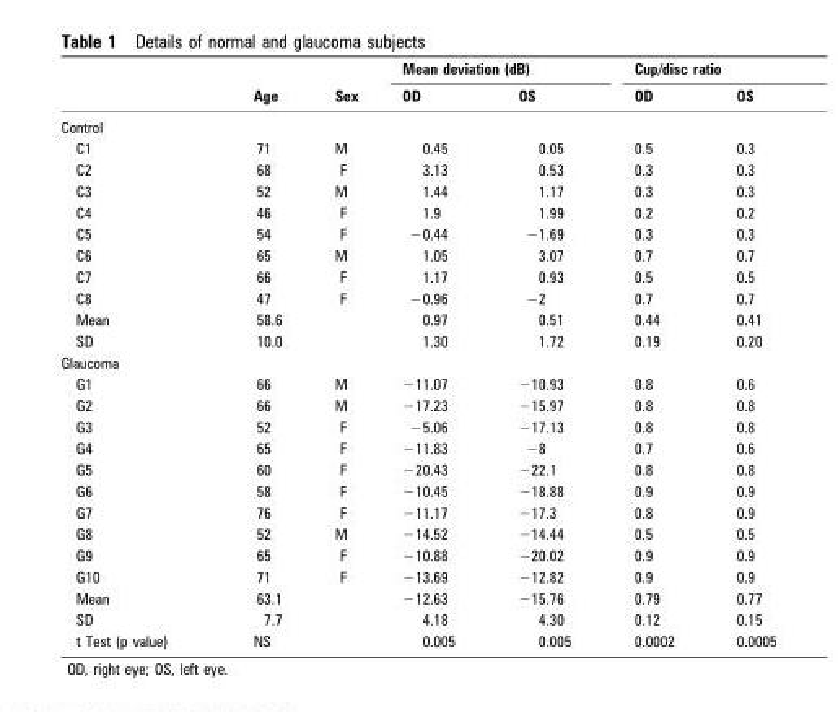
<table><thead><tr><td rowspan="2"></td><td rowspan="2">Age</td><td rowspan="2">Sex</td><td colspan="2">Mean deviation (dB)</td><td colspan="2">Cup/disc ratio</td></tr><tr><td>OD</td><td>OS</td><td>OD</td><td>OS</td></tr></thead><tbody><tr><td colspan="7">Control</td></tr><tr><td>C1</td><td>71</td><td>M</td><td>0.45</td><td>0.05</td><td>0.5</td><td>0.3</td></tr><tr><td>C2</td><td>68</td><td>F</td><td>3.13</td><td>0.53</td><td>0.3</td><td>0.3</td></tr><tr><td>C3</td><td>52</td><td>M</td><td>1.44</td><td>1.17</td><td>0.3</td><td>0.3</td></tr><tr><td>C4</td><td>46</td><td>F</td><td>1.9</td><td>1.99</td><td>0.2</td><td>0.2</td></tr><tr><td>C5</td><td>54</td><td>F</td><td>−0.44</td><td>−1.69</td><td>0.3</td><td>0.3</td></tr><tr><td>C6</td><td>65</td><td>M</td><td>1.05</td><td>3.07</td><td>0.7</td><td>0.7</td></tr><tr><td>C7</td><td>66</td><td>F</td><td>1.17</td><td>0.93</td><td>0.5</td><td>0.5</td></tr><tr><td>C8</td><td>47</td><td>F</td><td>−0.96</td><td>−2</td><td>0.7</td><td>0.7</td></tr><tr><td>Mean</td><td>58.6</td><td></td><td>0.97</td><td>0.51</td><td>0.44</td><td>0.41</td></tr><tr><td>SD</td><td>10.0</td><td></td><td>1.30</td><td>1.72</td><td>0.19</td><td>0.20</td></tr><tr><td colspan="7">Glaucoma</td></tr><tr><td>G1</td><td>66</td><td>M</td><td>−11.07</td><td>−10.93</td><td>0.8</td><td>0.6</td></tr><tr><td>G2</td><td>66</td><td>M</td><td>−17.23</td><td>−15.97</td><td>0.8</td><td>0.8</td></tr><tr><td>G3</td><td>52</td><td>F</td><td>−5.06</td><td>−17.13</td><td>0.8</td><td>0.8</td></tr><tr><td>G4</td><td>65</td><td>F</td><td>−11.83</td><td>−8</td><td>0.7</td><td>0.6</td></tr><tr><td>G5</td><td>60</td><td>F</td><td>−20.43</td><td>−22.1</td><td>0.8</td><td>0.8</td></tr><tr><td>G6</td><td>58</td><td>F</td><td>−10.45</td><td>−18.88</td><td>0.9</td><td>0.9</td></tr><tr><td>G7</td><td>76</td><td>F</td><td>−11.17</td><td>−17.3</td><td>0.8</td><td>0.9</td></tr><tr><td>G8</td><td>52</td><td>M</td><td>−14.52</td><td>−14.44</td><td>0.5</td><td>0.5</td></tr><tr><td>G9</td><td>65</td><td>F</td><td>−10.88</td><td>−20.02</td><td>0.9</td><td>0.9</td></tr><tr><td>G10</td><td>71</td><td>F</td><td>−13.69</td><td>−12.82</td><td>0.9</td><td>0.9</td></tr><tr><td>Mean</td><td>63.1</td><td></td><td>−12.63</td><td>−15.76</td><td>0.79</td><td>0.77</td></tr><tr><td>SD</td><td>7.7</td><td></td><td>4.18</td><td>4.30</td><td>0.12</td><td>0.15</td></tr><tr><td>t Test (p value)</td><td>NS</td><td></td><td>0.005</td><td>0.005</td><td>0.0002</td><td>0.0005</td></tr></tbody></table>